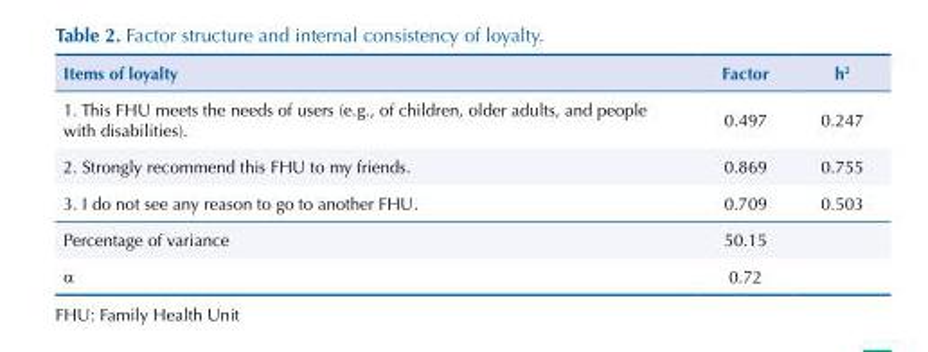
<table><thead><tr><td>Items of loyalty</td><td>Factor</td><td>h<sup>2</sup></td></tr></thead><tbody><tr><td>1. This FHU meets the needs of users (e.g., of children, older adults, and people with disabilities).</td><td>0.497</td><td>0.247</td></tr><tr><td>2. Strongly recommend this FHU to my friends.</td><td>0.869</td><td>0.755</td></tr><tr><td>3. I do not see any reason to go to another FHU.</td><td>0.709</td><td>0.503</td></tr><tr><td>Percentage of variance</td><td>50.15</td><td></td></tr><tr><td>α</td><td>0.72</td><td></td></tr></tbody></table>